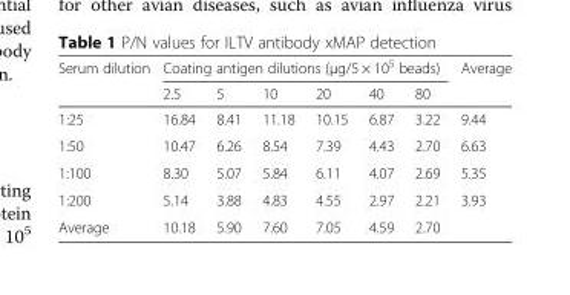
<table><thead><tr><td rowspan="2">Serum dilution</td><td colspan="6">Coating antigen dilutions (μg/5 × 10<sup>5</sup> beads)</td><td rowspan="2">Average</td></tr><tr><td>2.5</td><td>5</td><td>10</td><td>20</td><td>40</td><td>80</td></tr></thead><tbody><tr><td>1:25</td><td>16.84</td><td>8.41</td><td>11.18</td><td>10.15</td><td>6.87</td><td>3.22</td><td>9.44</td></tr><tr><td>1:50</td><td>10.47</td><td>6.26</td><td>8.54</td><td>7.39</td><td>4.43</td><td>2.70</td><td>6.63</td></tr><tr><td>1:100</td><td>8.30</td><td>5.07</td><td>5.84</td><td>6.11</td><td>4.07</td><td>2.69</td><td>5.35</td></tr><tr><td>1:200</td><td>5.14</td><td>3.88</td><td>4.83</td><td>4.55</td><td>2.97</td><td>2.21</td><td>3.93</td></tr><tr><td>Average</td><td>10.18</td><td>5.90</td><td>7.60</td><td>7.05</td><td>4.59</td><td>2.70</td><td></td></tr></tbody></table>